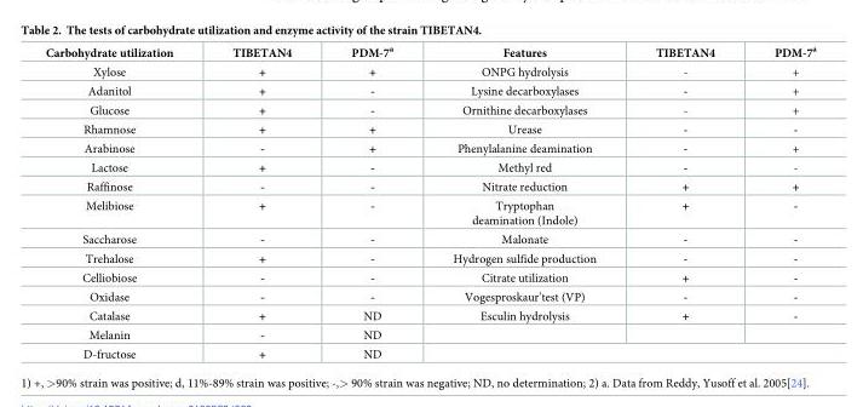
<table><thead><tr><td>Carbohydrate utilization</td><td>TIBETAN4</td><td>PDM-7<sup>a</sup></td><td>Features</td><td>TIBETAN4</td><td>PDM-7<sup>a</sup></td></tr></thead><tbody><tr><td>Xylose</td><td>+</td><td>+</td><td>ONPG hydrolysis</td><td>-</td><td>+</td></tr><tr><td>Adanitol</td><td>+</td><td>-</td><td>Lysine decarboxylases</td><td>-</td><td>+</td></tr><tr><td>Glucose</td><td>+</td><td>-</td><td>Ornithine decarboxylases</td><td>-</td><td>+</td></tr><tr><td>Rhamnose</td><td>+</td><td>+</td><td>Urease</td><td>-</td><td>-</td></tr><tr><td>Arabinose</td><td>-</td><td>+</td><td>Phenylalanine deamination</td><td>-</td><td>+</td></tr><tr><td>Lactose</td><td>+</td><td>-</td><td>Methyl red</td><td>-</td><td>-</td></tr><tr><td>Raffinose</td><td>-</td><td>-</td><td>Nitrate reduction</td><td>+</td><td>+</td></tr><tr><td>Melibiose</td><td>+</td><td>-</td><td>Tryptophan deamination (Indole)</td><td>+</td><td>-</td></tr><tr><td>Saccharose</td><td>-</td><td>-</td><td>Malonate</td><td>-</td><td>-</td></tr><tr><td>Trehalose</td><td>+</td><td>-</td><td>Hydrogen sulfide production</td><td>-</td><td>-</td></tr><tr><td>Celliobiose</td><td>-</td><td>-</td><td>Citrate utilization</td><td>+</td><td>-</td></tr><tr><td>Oxidase</td><td>-</td><td>-</td><td>Vogesproskaur’test (VP)</td><td>-</td><td>-</td></tr><tr><td>Catalase</td><td>+</td><td>ND</td><td>Esculin hydrolysis</td><td>+</td><td>-</td></tr><tr><td>Melanin</td><td>-</td><td>ND</td><td></td><td></td><td></td></tr><tr><td>D-fructose</td><td>+</td><td>ND</td><td colspan="3"></td></tr></tbody></table>